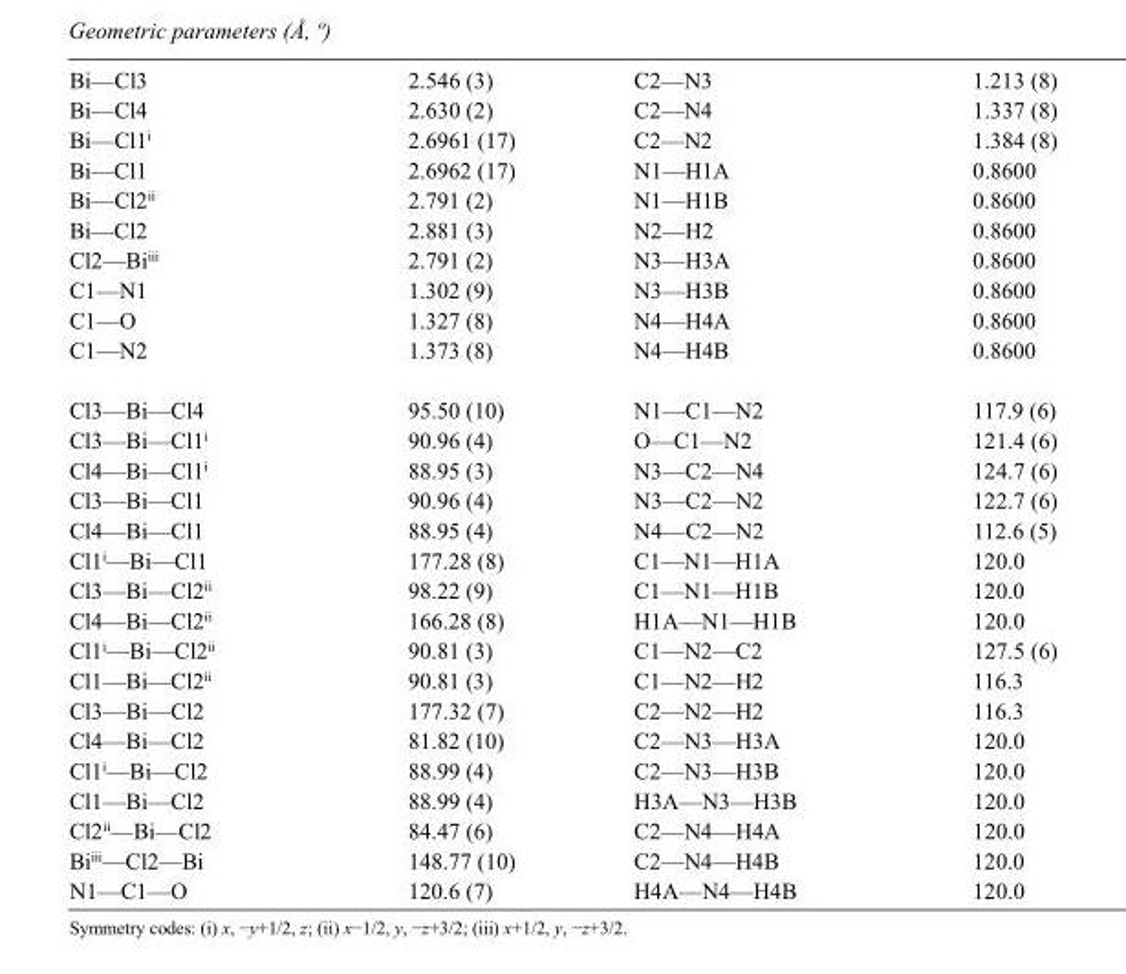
<table><tbody><tr><td>Bi—Cl3</td><td>2.546 (3)</td><td>C2—N3</td><td>1.213 (8)</td></tr><tr><td>Bi—Cl4</td><td>2.630 (2)</td><td>C2—N4</td><td>1.337 (8)</td></tr><tr><td>Bi—Cl1<sup>i</sup></td><td>2.6961 (17)</td><td>C2—N2</td><td>1.384 (8)</td></tr><tr><td>Bi—Cl1</td><td>2.6962 (17)</td><td>N1—H1A</td><td>0.8600</td></tr><tr><td>Bi—Cl2<sup>ii</sup></td><td>2.791 (2)</td><td>N1—H1B</td><td>0.8600</td></tr><tr><td>Bi—Cl2</td><td>2.881 (3)</td><td>N2—H2</td><td>0.8600</td></tr><tr><td>Cl2—Bi<sup>iii</sup></td><td>2.791 (2)</td><td>N3—H3A</td><td>0.8600</td></tr><tr><td>C1—N1</td><td>1.302 (9)</td><td>N3—H3B</td><td>0.8600</td></tr><tr><td>C1—O</td><td>1.327 (8)</td><td>N4—H4A</td><td>0.8600</td></tr><tr><td>C1—N2</td><td>1.373 (8)</td><td>N4—H4B</td><td>0.8600</td></tr><tr><td>Cl3—Bi—Cl4</td><td>95.50 (10)</td><td>N1—C1—N2</td><td>117.9 (6)</td></tr><tr><td>Cl3—Bi—Cl1<sup>i</sup></td><td>90.96 (4)</td><td>O—C1—N2</td><td>121.4 (6)</td></tr><tr><td>Cl4—Bi—Cl1<sup>i</sup></td><td>88.95 (3)</td><td>N3—C2—N4</td><td>124.7 (6)</td></tr><tr><td>Cl3—Bi—Cl1</td><td>90.96 (4)</td><td>N3—C2—N2</td><td>122.7 (6)</td></tr><tr><td>Cl4—Bi—Cl1</td><td>88.95 (4)</td><td>N4—C2—N2</td><td>112.6 (5)</td></tr><tr><td>Cl1<sup>i</sup>—Bi—Cl1</td><td>177.28 (8)</td><td>C1—N1—H1A</td><td>120.0</td></tr><tr><td>Cl3—Bi—Cl2<sup>ii</sup></td><td>98.22 (9)</td><td>C1—N1—H1B</td><td>120.0</td></tr><tr><td>Cl4—Bi—Cl2<sup>ii</sup></td><td>166.28 (8)</td><td>H1A—N1—H1B</td><td>120.0</td></tr><tr><td>Cl1<sup>i</sup>—Bi—Cl2<sup>ii</sup></td><td>90.81 (3)</td><td>C1—N2—C2</td><td>127.5 (6)</td></tr><tr><td>Cl1—Bi—Cl2<sup>ii</sup></td><td>90.81 (3)</td><td>C1—N2—H2</td><td>116.3</td></tr><tr><td>Cl3—Bi—Cl2</td><td>177.32 (7)</td><td>C2—N2—H2</td><td>116.3</td></tr><tr><td>Cl4—Bi—Cl2</td><td>81.82 (10)</td><td>C2—N3—H3A</td><td>120.0</td></tr><tr><td>Cl1<sup>i</sup>—Bi—Cl2</td><td>88.99 (4)</td><td>C2—N3—H3B</td><td>120.0</td></tr><tr><td>Cl1—Bi—Cl2</td><td>88.99 (4)</td><td>H3A—N3—H3B</td><td>120.0</td></tr><tr><td>Cl2<sup>ii</sup>—Bi—Cl2</td><td>84.47 (6)</td><td>C2—N4—H4A</td><td>120.0</td></tr><tr><td>Bi<sup>iii</sup>—Cl2—Bi</td><td>148.77 (10)</td><td>C2—N4—H4B</td><td>120.0</td></tr><tr><td>N1—C1—O</td><td>120.6 (7)</td><td>H4A—N4—H4B</td><td>120.0</td></tr></tbody></table>